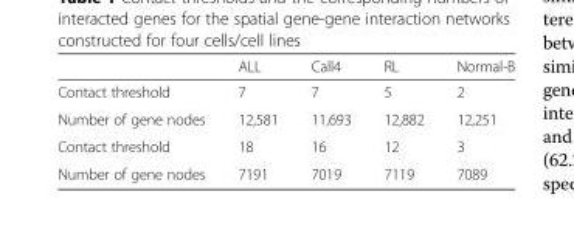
<table><thead><tr><td></td><td>ALL</td><td>Call4</td><td>RL</td><td>Normal-B</td></tr></thead><tbody><tr><td>Contact threshold</td><td>7</td><td>7</td><td>5</td><td>2</td></tr><tr><td>Number of gene nodes</td><td>12,581</td><td>11,693</td><td>12,882</td><td>12,251</td></tr><tr><td>Contact threshold</td><td>18</td><td>16</td><td>12</td><td>3</td></tr><tr><td>Number of gene nodes</td><td>7191</td><td>7019</td><td>7119</td><td>7089</td></tr></tbody></table>